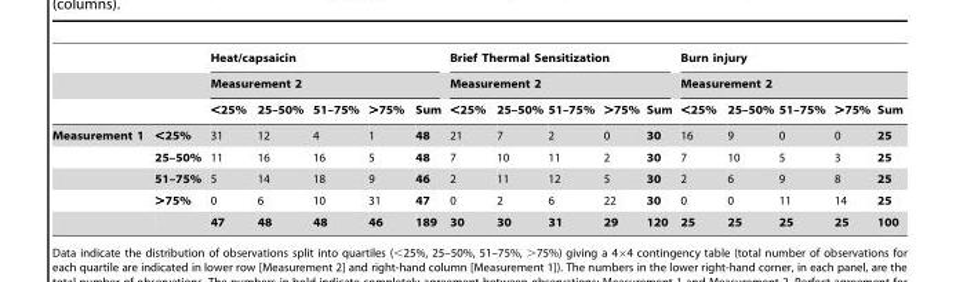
<table><thead><tr><td rowspan="3"></td><td rowspan="3"></td><td rowspan="2" colspan="5">Heat/capsaicin Measurement 2</td><td rowspan="2" colspan="5">Brief Thermal Sensitization Measurement 2</td><td rowspan="2" colspan="5">Burn injury Measurement 2</td></tr><tr></tr><tr><td>&lt;25%</td><td>25–50%</td><td>51–75%</td><td>&gt;75%</td><td>Sum</td><td>&lt;25%</td><td>25–50%</td><td>51–75%</td><td>&gt;75%</td><td>Sum</td><td>&lt;25%</td><td>25–50%</td><td>51–75%</td><td>&gt;75%</td><td>Sum</td></tr></thead><tbody><tr><td rowspan="5">Measurement 1</td><td>&lt;25%</td><td>31</td><td>12</td><td>4</td><td>1</td><td>48</td><td>21</td><td>7</td><td>2</td><td>0</td><td>30</td><td>16</td><td>9</td><td>0</td><td>0</td><td>25</td></tr><tr><td>25–50%</td><td>11</td><td>16</td><td>16</td><td>5</td><td>48</td><td>7</td><td>10</td><td>11</td><td>2</td><td>30</td><td>7</td><td>10</td><td>5</td><td>3</td><td>25</td></tr><tr><td>51–75%</td><td>5</td><td>14</td><td>18</td><td>9</td><td>46</td><td>2</td><td>11</td><td>12</td><td>5</td><td>30</td><td>2</td><td>6</td><td>9</td><td>8</td><td>25</td></tr><tr><td>&gt;75%</td><td>0</td><td>6</td><td>10</td><td>31</td><td>47</td><td>0</td><td>2</td><td>6</td><td>22</td><td>30</td><td>0</td><td>0</td><td>11</td><td>14</td><td>25</td></tr><tr><td></td><td>47</td><td>48</td><td>48</td><td>46</td><td>189</td><td>30</td><td>30</td><td>31</td><td>29</td><td>120</td><td>25</td><td>25</td><td>25</td><td>25</td><td>100</td></tr></tbody></table>